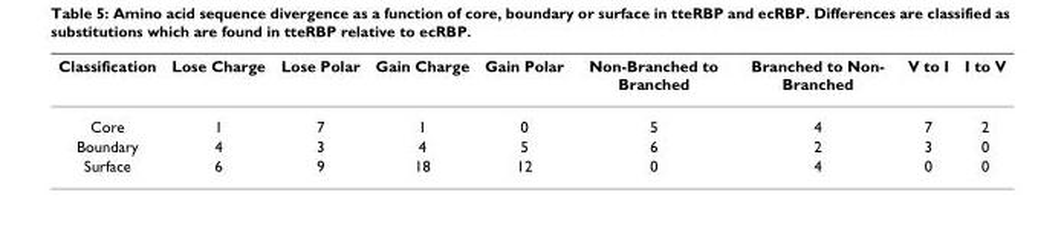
<table><thead><tr><td>Classification</td><td>Lose Charge</td><td>Lose Polar</td><td>Gain Charge</td><td>Gain Polar</td><td>Non-Branched to Branched</td><td>Branched to Non- Branched</td><td>V to I</td><td>I to V</td></tr></thead><tbody><tr><td>Core</td><td>1</td><td>7</td><td>1</td><td>0</td><td>5</td><td>4</td><td>7</td><td>2</td></tr><tr><td>Boundary</td><td>4</td><td>3</td><td>4</td><td>5</td><td>6</td><td>2</td><td>3</td><td>0</td></tr><tr><td>Surface</td><td>6</td><td>9</td><td>18</td><td>12</td><td>0</td><td>4</td><td>0</td><td>0</td></tr></tbody></table>